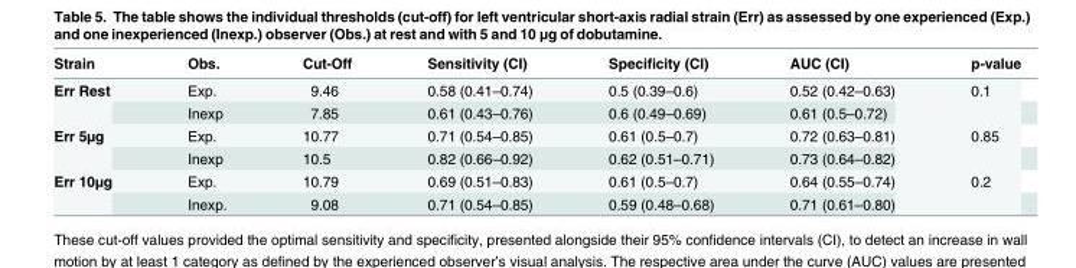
<table><thead><tr><td>Strain</td><td>Obs.</td><td>Cut-Off</td><td>Sensitivity (CI)</td><td>Specificity (CI)</td><td>AUC (CI)</td><td>p-value</td></tr></thead><tbody><tr><td rowspan="2">Err Rest</td><td>Exp.</td><td>9.46</td><td>0.58 (0.41–0.74)</td><td>0.5 (0.39–0.6)</td><td>0.52 (0.42–0.63)</td><td rowspan="2">0.1</td></tr><tr><td>Inexp</td><td>7.85</td><td>0.61 (0.43–0.76)</td><td>0.6 (0.49–0.69)</td><td>0.61 (0.5–0.72)</td></tr><tr><td rowspan="2">Err 5µg</td><td>Exp.</td><td>10.77</td><td>0.71 (0.54–0.85)</td><td>0.61 (0.5–0.7)</td><td>0.72 (0.63–0.81)</td><td rowspan="2">0.85</td></tr><tr><td>Inexp</td><td>10.5</td><td>0.82 (0.66–0.92)</td><td>0.62 (0.51–0.71)</td><td>0.73 (0.64–0.82)</td></tr><tr><td rowspan="2">Err 10µg</td><td>Exp.</td><td>10.79</td><td>0.69 (0.51–0.83)</td><td>0.61 (0.5–0.7)</td><td>0.64 (0.55–0.74)</td><td rowspan="2">0.2</td></tr><tr><td>Inexp.</td><td>9.08</td><td>0.71 (0.54–0.85)</td><td>0.59 (0.48–0.68)</td><td>0.71 (0.61–0.80)</td></tr></tbody></table>